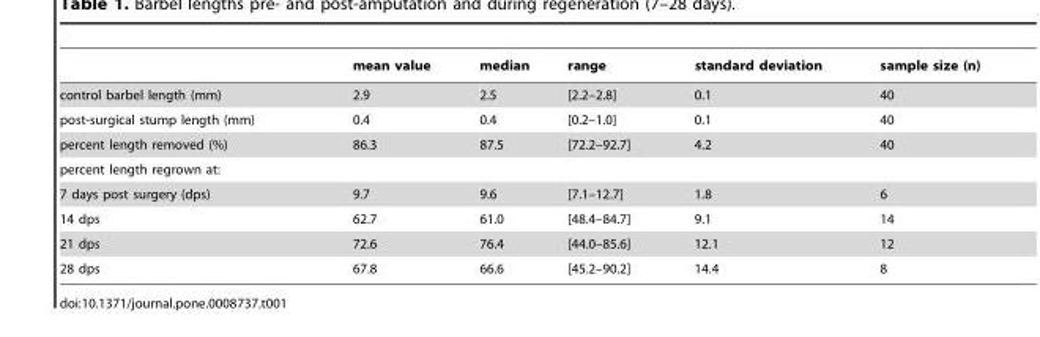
<table><thead><tr><td></td><td>mean value</td><td>median</td><td>range</td><td>standard deviation</td><td>sample size (n)</td></tr></thead><tbody><tr><td>control barbel length (mm)</td><td>2.9</td><td>2.5</td><td>[2.2–2.8]</td><td>0.1</td><td>40</td></tr><tr><td>post-surgical stump length (mm)</td><td>0.4</td><td>0.4</td><td>[0.2–1.0]</td><td>0.1</td><td>40</td></tr><tr><td>percent length removed (%)</td><td>86.3</td><td>87.5</td><td>[72.2–92.7]</td><td>4.2</td><td>40</td></tr><tr><td colspan="6">percent length regrown at:</td></tr><tr><td>7 days post surgery (dps)</td><td>9.7</td><td>9.6</td><td>[7.1–12.7]</td><td>1.8</td><td>6</td></tr><tr><td>14 dps</td><td>62.7</td><td>61.0</td><td>[48.4–84.7]</td><td>9.1</td><td>14</td></tr><tr><td>21 dps</td><td>72.6</td><td>76.4</td><td>[44.0–85.6]</td><td>12.1</td><td>12</td></tr><tr><td>28 dps</td><td>67.8</td><td>66.6</td><td>[45.2–90.2]</td><td>14.4</td><td>8</td></tr></tbody></table>